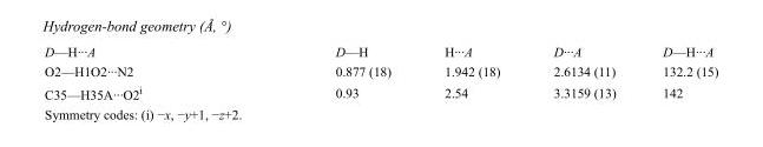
<table><tbody><tr><td>D—H···A</td><td>D—H</td><td>H···A</td><td>D···A</td><td>D—H···A</td></tr><tr><td>O2—H1O2···N2</td><td>0.877 (18)</td><td>1.942 (18)</td><td>2.6134 (11)</td><td>132.2 (15)</td></tr><tr><td>C35—H35A···O2<sup>i</sup></td><td>0.93</td><td>2.54</td><td>3.3159 (13)</td><td>142</td></tr></tbody></table>